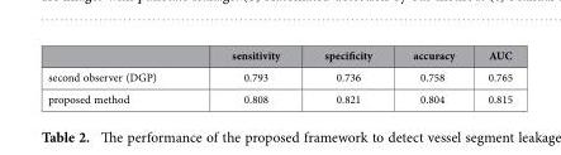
<table><thead><tr><td></td><td>sensitivity</td><td>specificity</td><td>accuracy</td><td>AUC</td></tr></thead><tbody><tr><td>second observer (DGP)</td><td>0.793</td><td>0.736</td><td>0.758</td><td>0.765</td></tr><tr><td>proposed method</td><td>0.808</td><td>0.821</td><td>0.804</td><td>0.815</td></tr></tbody></table>